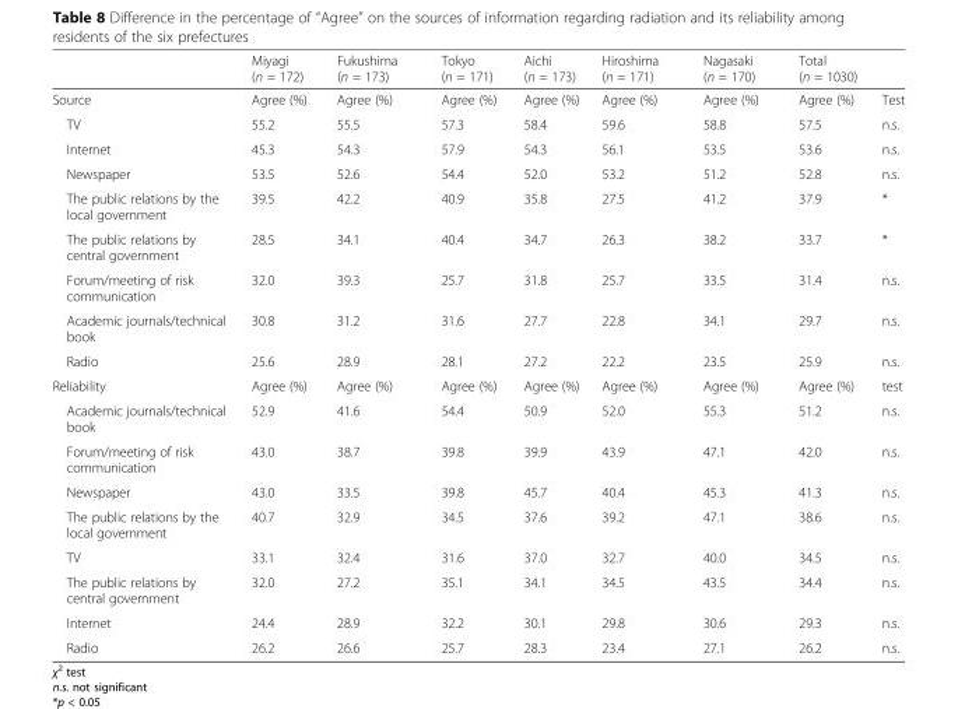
<table><thead><tr><td></td><td>Miyagi (n = 172)</td><td>Fukushima (n = 173)</td><td>Tokyo (n = 171)</td><td>Aichi (n = 173)</td><td>Hiroshima (n = 171)</td><td>Nagasaki (n = 170)</td><td>Total (n = 1030)</td><td></td></tr></thead><tbody><tr><td>Source</td><td>Agree (%)</td><td>Agree (%)</td><td>Agree (%)</td><td>Agree (%)</td><td>Agree (%)</td><td>Agree (%)</td><td>Agree (%)</td><td>Test</td></tr><tr><td>TV</td><td>55.2</td><td>55.5</td><td>57.3</td><td>58.4</td><td>59.6</td><td>58.8</td><td>57.5</td><td>n.s.</td></tr><tr><td>Internet</td><td>45.3</td><td>54.3</td><td>57.9</td><td>54.3</td><td>56.1</td><td>53.5</td><td>53.6</td><td>n.s.</td></tr><tr><td>Newspaper</td><td>53.5</td><td>52.6</td><td>54.4</td><td>52.0</td><td>53.2</td><td>51.2</td><td>52.8</td><td>n.s.</td></tr><tr><td>The public relations by the local government</td><td>39.5</td><td>42.2</td><td>40.9</td><td>35.8</td><td>27.5</td><td>41.2</td><td>37.9</td><td>*</td></tr><tr><td>The public relations by central government</td><td>28.5</td><td>34.1</td><td>40.4</td><td>34.7</td><td>26.3</td><td>38.2</td><td>33.7</td><td>*</td></tr><tr><td>Forum/meeting of risk communication</td><td>32.0</td><td>39.3</td><td>25.7</td><td>31.8</td><td>25.7</td><td>33.5</td><td>31.4</td><td>n.s.</td></tr><tr><td>Academic journals/technical book</td><td>30.8</td><td>31.2</td><td>31.6</td><td>27.7</td><td>22.8</td><td>34.1</td><td>29.7</td><td>n.s.</td></tr><tr><td>Radio</td><td>25.6</td><td>28.9</td><td>28.1</td><td>27.2</td><td>22.2</td><td>23.5</td><td>25.9</td><td>n.s.</td></tr><tr><td>Reliability</td><td>Agree (%)</td><td>Agree (%)</td><td>Agree (%)</td><td>Agree (%)</td><td>Agree (%)</td><td>Agree (%)</td><td>Agree (%)</td><td>test</td></tr><tr><td>Academic journals/technical book</td><td>52.9</td><td>41.6</td><td>54.4</td><td>50.9</td><td>52.0</td><td>55.3</td><td>51.2</td><td>n.s.</td></tr><tr><td>Forum/meeting of risk communication</td><td>43.0</td><td>38.7</td><td>39.8</td><td>39.9</td><td>43.9</td><td>47.1</td><td>42.0</td><td>n.s.</td></tr><tr><td>Newspaper</td><td>43.0</td><td>33.5</td><td>39.8</td><td>45.7</td><td>40.4</td><td>45.3</td><td>41.3</td><td>n.s.</td></tr><tr><td>The public relations by the local government</td><td>40.7</td><td>32.9</td><td>34.5</td><td>37.6</td><td>39.2</td><td>47.1</td><td>38.6</td><td>n.s.</td></tr><tr><td>TV</td><td>33.1</td><td>32.4</td><td>31.6</td><td>37.0</td><td>32.7</td><td>40.0</td><td>34.5</td><td>n.s.</td></tr><tr><td>The public relations by central government</td><td>32.0</td><td>27.2</td><td>35.1</td><td>34.1</td><td>34.5</td><td>43.5</td><td>34.4</td><td>n.s.</td></tr><tr><td>Internet</td><td>24.4</td><td>28.9</td><td>32.2</td><td>30.1</td><td>29.8</td><td>30.6</td><td>29.3</td><td>n.s.</td></tr><tr><td>Radio</td><td>26.2</td><td>26.6</td><td>25.7</td><td>28.3</td><td>23.4</td><td>27.1</td><td>26.2</td><td>n.s.</td></tr></tbody></table>